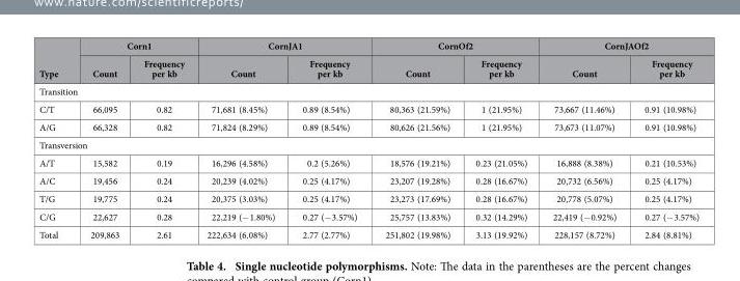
<table><thead><tr><td rowspan="2">Type</td><td colspan="2">Corn1</td><td colspan="2">CornJA1</td><td colspan="2">CornOf2</td><td colspan="2">CornJAOf2</td></tr><tr><td>Count</td><td>Frequency per kb</td><td>Count</td><td>Frequency per kb</td><td>Count</td><td>Frequency per kb</td><td>Count</td><td>Frequency per kb</td></tr></thead><tbody><tr><td colspan="9">Transition</td></tr><tr><td>C/T</td><td>66,095</td><td>0.82</td><td>71,681 (8.45%)</td><td>0.89 (8.54%)</td><td>80,363 (21.59%)</td><td>1 (21.95%)</td><td>73,667 (11.46%)</td><td>0.91 (10.98%)</td></tr><tr><td>A/G</td><td>66,328</td><td>0.82</td><td>71,824 (8.29%)</td><td>0.89 (8.54%)</td><td>80,626 (21.56%)</td><td>1 (21.95%)</td><td>73,673 (11.07%)</td><td>0.91 (10.98%)</td></tr><tr><td colspan="9">Transversion</td></tr><tr><td>A/T</td><td>15,582</td><td>0.19</td><td>16,296 (4.58%)</td><td>0.2 (5.26%)</td><td>18,576 (19.21%)</td><td>0.23 (21.05%)</td><td>16,888 (8.38%)</td><td>0.21 (10.53%)</td></tr><tr><td>A/C</td><td>19,456</td><td>0.24</td><td>20,239 (4.02%)</td><td>0.25 (4.17%)</td><td>23,207 (19.28%)</td><td>0.28 (16.67%)</td><td>20,732 (6.56%)</td><td>0.25 (4.17%)</td></tr><tr><td>T/G</td><td>19,775</td><td>0.24</td><td>20,375 (3.03%)</td><td>0.25 (4.17%)</td><td>23,273 (17.69%)</td><td>0.28 (16.67%)</td><td>20,778 (5.07%)</td><td>0.25 (4.17%)</td></tr><tr><td>C/G</td><td>22,627</td><td>0.28</td><td>22,219 (− 1.80%)</td><td>0.27 (− 3.57%)</td><td>25,757 (13.83%)</td><td>0.32 (14.29%)</td><td>22,419 (− 0.92%)</td><td>0.27 (− 3.57%)</td></tr><tr><td>Total</td><td>209,863</td><td>2.61</td><td>222,634 (6.08%)</td><td>2.77 (2.77%)</td><td>251,802 (19.98%)</td><td>3.13 (19.92%)</td><td>228,157 (8.72%)</td><td>2.84 (8.81%)</td></tr></tbody></table>